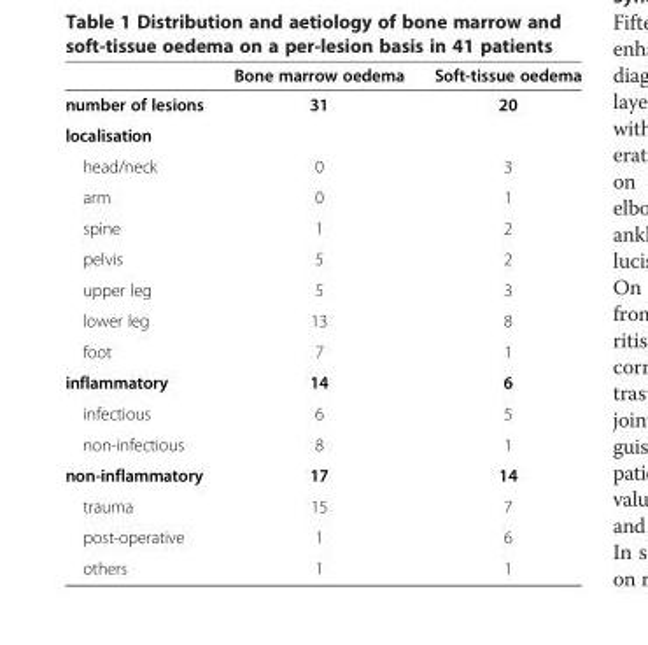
<table><thead><tr><td></td><td>Bone marrow oedema</td><td>Soft-tissue oedema</td></tr></thead><tbody><tr><td>number of lesions</td><td>31</td><td>20</td></tr><tr><td colspan="3">localisation</td></tr><tr><td>head/neck</td><td>0</td><td>3</td></tr><tr><td>arm</td><td>0</td><td>1</td></tr><tr><td>spine</td><td>1</td><td>2</td></tr><tr><td>pelvis</td><td>5</td><td>2</td></tr><tr><td>upper leg</td><td>5</td><td>3</td></tr><tr><td>lower leg</td><td>13</td><td>8</td></tr><tr><td>foot</td><td>7</td><td>1</td></tr><tr><td>inflammatory</td><td>14</td><td>6</td></tr><tr><td>infectious</td><td>6</td><td>5</td></tr><tr><td>non-infectious</td><td>8</td><td>1</td></tr><tr><td>non-inflammatory</td><td>17</td><td>14</td></tr><tr><td>trauma</td><td>15</td><td>7</td></tr><tr><td>post-operative</td><td>1</td><td>6</td></tr><tr><td>others</td><td>1</td><td>1</td></tr></tbody></table>